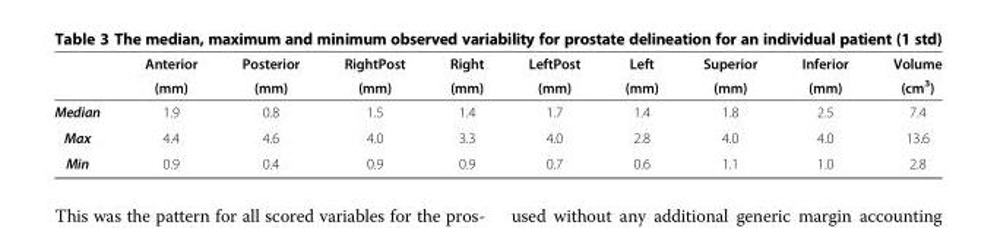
<table><thead><tr><td rowspan="2"></td><td rowspan="2">Anterior (mm)</td><td rowspan="2">Posterior (mm)</td><td rowspan="2">RightPost (mm)</td><td rowspan="2">Right (mm)</td><td rowspan="2">LeftPost (mm)</td><td rowspan="2">Left (mm)</td><td rowspan="2">Superior (mm)</td><td rowspan="2">Inferior (mm)</td><td rowspan="2">Volume (cm<sup>3</sup>)</td></tr><tr></tr></thead><tbody><tr><td>Median</td><td>1.9</td><td>0.8</td><td>1.5</td><td>1.4</td><td>1.7</td><td>1.4</td><td>1.8</td><td>2.5</td><td>7.4</td></tr><tr><td>Max</td><td>4.4</td><td>4.6</td><td>4.0</td><td>3.3</td><td>4.0</td><td>2.8</td><td>4.0</td><td>4.0</td><td>13.6</td></tr><tr><td>Min</td><td>0.9</td><td>0.4</td><td>0.9</td><td>0.9</td><td>0.7</td><td>0.6</td><td>1.1</td><td>1.0</td><td>2.8</td></tr></tbody></table>